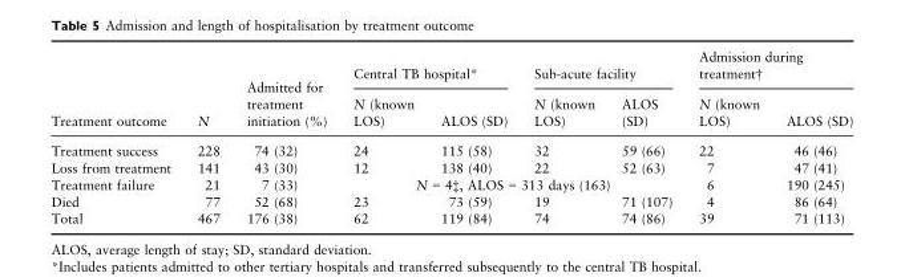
<table><thead><tr><td rowspan="2">Treatment outcome</td><td rowspan="2">N</td><td rowspan="2">Admitted for treatment initiation (%)</td><td colspan="2">Central TB hospital*</td><td colspan="2">Sub-acute facility</td><td colspan="2">Admission during treatment†</td></tr><tr><td>N (known LOS)</td><td>ALOS (SD)</td><td>N (known LOS)</td><td>ALOS (SD)</td><td>N (known LOS)</td><td>ALOS (SD)</td></tr></thead><tbody><tr><td>Treatment success</td><td>228</td><td>74 (32)</td><td>24</td><td>115 (58)</td><td>32</td><td>59 (66)</td><td>22</td><td>46 (46)</td></tr><tr><td>Loss from treatment</td><td>141</td><td>43 (30)</td><td>12</td><td>138 (40)</td><td>22</td><td>52 (63)</td><td>7</td><td>47 (41)</td></tr><tr><td>Treatment failure</td><td>21</td><td>7 (33)</td><td colspan="4">N = 4‡, ALOS = 313 days (163)</td><td>6</td><td>190 (245)</td></tr><tr><td>Died</td><td>77</td><td>52 (68)</td><td>23</td><td>73 (59)</td><td>19</td><td>71 (107)</td><td>4</td><td>86 (64)</td></tr><tr><td>Total</td><td>467</td><td>176 (38)</td><td>62</td><td>119 (84)</td><td>74</td><td>74 (86)</td><td>39</td><td>71 (113)</td></tr></tbody></table>